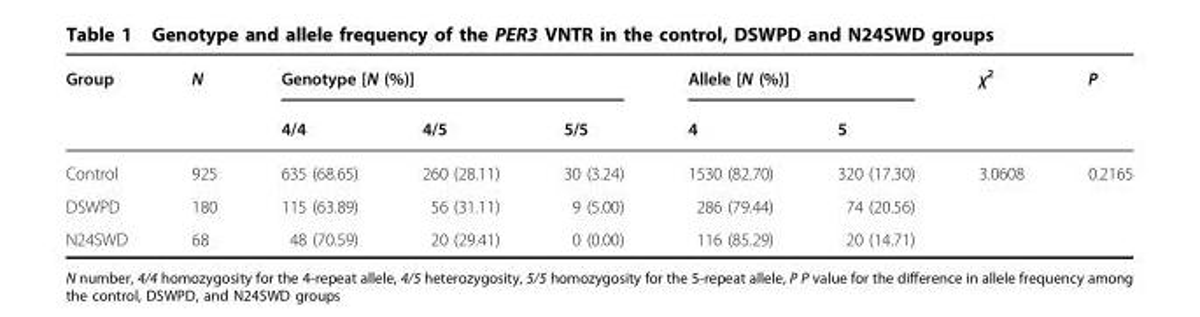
<table><thead><tr><td rowspan="2">Group</td><td rowspan="2">N</td><td colspan="3">Genotype [N (%)]</td><td colspan="2">Allele [N (%)]</td><td rowspan="2">χ<sup>2</sup></td><td rowspan="2">P</td></tr><tr><td>4/4</td><td>4/5</td><td>5/5</td><td>4</td><td>5</td></tr></thead><tbody><tr><td>Control</td><td>925</td><td>635 (68.65)</td><td>260 (28.11)</td><td>30 (3.24)</td><td>1530 (82.70)</td><td>320 (17.30)</td><td>3.0608</td><td>0.2165</td></tr><tr><td>DSWPD</td><td>180</td><td>115 (63.89)</td><td>56 (31.11)</td><td>9 (5.00)</td><td>286 (79.44)</td><td>74 (20.56)</td><td></td><td></td></tr><tr><td>N24SWD</td><td>68</td><td>48 (70.59)</td><td>20 (29.41)</td><td>0 (0.00)</td><td>116 (85.29)</td><td>20 (14.71)</td><td></td><td></td></tr></tbody></table>